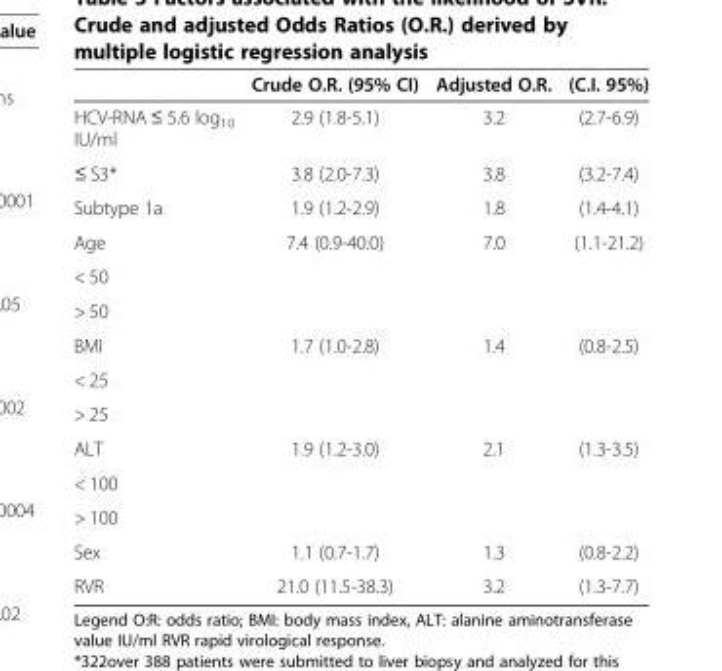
<table><thead><tr><td></td><td>Crude O.R. (95% CI)</td><td>Adjusted O.R.</td><td>(C.I. 95%)</td></tr></thead><tbody><tr><td>HCV-RNA ≤ 5.6 log<sub>10</sub> IU/ml</td><td>2.9 (1.8-5.1)</td><td>3.2</td><td>(2.7-6.9)</td></tr><tr><td>≤ S3*</td><td>3.8 (2.0-7.3)</td><td>3.8</td><td>(3.2-7.4)</td></tr><tr><td>Subtype 1a</td><td>1.9 (1.2-2.9)</td><td>1.8</td><td>(1.4-4.1)</td></tr><tr><td>Age</td><td>7.4 (0.9-40.0)</td><td>7.0</td><td>(1.1-21.2)</td></tr><tr><td colspan="4">&lt; 50</td></tr><tr><td colspan="4">&gt; 50</td></tr><tr><td>BMI</td><td>1.7 (1.0-2.8)</td><td>1.4</td><td>(0.8-2.5)</td></tr><tr><td colspan="4">&lt; 25</td></tr><tr><td colspan="4">&gt; 25</td></tr><tr><td>ALT</td><td>1.9 (1.2-3.0)</td><td>2.1</td><td>(1.3-3.5)</td></tr><tr><td colspan="4">&lt; 100</td></tr><tr><td colspan="4">&gt; 100</td></tr><tr><td>Sex</td><td>1.1 (0.7-1.7)</td><td>1.3</td><td>(0.8-2.2)</td></tr><tr><td>RVR</td><td>21.0 (11.5-38.3)</td><td>3.2</td><td>(1.3-7.7)</td></tr></tbody></table>